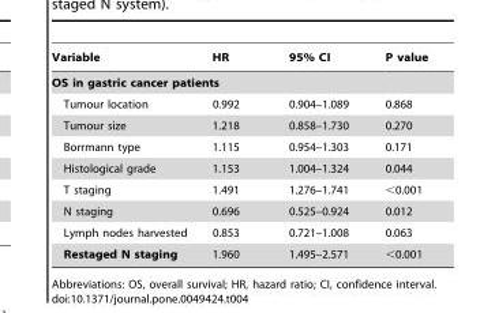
<table><thead><tr><td>Variable</td><td>HR</td><td>95% CI</td><td>P value</td></tr></thead><tbody><tr><td colspan="4">OS in gastric cancer patients</td></tr><tr><td>Tumour location</td><td>0.992</td><td>0.904–1.089</td><td>0.868</td></tr><tr><td>Tumour size</td><td>1.218</td><td>0.858–1.730</td><td>0.270</td></tr><tr><td>Borrmann type</td><td>1.115</td><td>0.954–1.303</td><td>0.171</td></tr><tr><td>Histological grade</td><td>1.153</td><td>1.004–1.324</td><td>0.044</td></tr><tr><td>T staging</td><td>1.491</td><td>1.276–1.741</td><td>&lt;0.001</td></tr><tr><td>N staging</td><td>0.696</td><td>0.525–0.924</td><td>0.012</td></tr><tr><td>Lymph nodes harvested</td><td>0.853</td><td>0.721–1.008</td><td>0.063</td></tr><tr><td>Restaged N staging</td><td>1.960</td><td>1.495–2.571</td><td>&lt;0.001</td></tr></tbody></table>